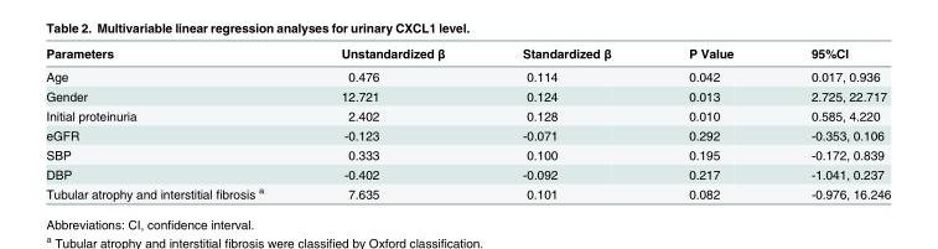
<table><thead><tr><td>Parameters</td><td>Unstandardized β</td><td>Standardized β</td><td>P Value</td><td>95%CI</td></tr></thead><tbody><tr><td>Age</td><td>0.476</td><td>0.114</td><td>0.042</td><td>0.017, 0.936</td></tr><tr><td>Gender</td><td>12.721</td><td>0.124</td><td>0.013</td><td>2.725, 22.717</td></tr><tr><td>Initial proteinuria</td><td>2.402</td><td>0.128</td><td>0.010</td><td>0.585, 4.220</td></tr><tr><td>eGFR</td><td>-0.123</td><td>-0.071</td><td>0.292</td><td>-0.353, 0.106</td></tr><tr><td>SBP</td><td>0.333</td><td>0.100</td><td>0.195</td><td>-0.172, 0.839</td></tr><tr><td>DBP</td><td>-0.402</td><td>-0.092</td><td>0.217</td><td>-1.041, 0.237</td></tr><tr><td>Tubular atrophy and interstitial fibrosis <sup>a</sup></td><td>7.635</td><td>0.101</td><td>0.082</td><td>-0.976, 16.246</td></tr></tbody></table>